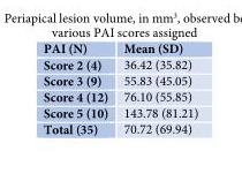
<table><thead><tr><td>PAI (N)</td><td>Mean (SD)</td></tr></thead><tbody><tr><td>Score 2 (4)</td><td>36.42 (35.82)</td></tr><tr><td>Score 3 (9)</td><td>55.83 (45.05)</td></tr><tr><td>Score 4 (12)</td><td>76.10 (55.85)</td></tr><tr><td>Score 5 (10)</td><td>143.78 (81.21)</td></tr><tr><td>Total (35)</td><td>70.72 (69.94)</td></tr></tbody></table>